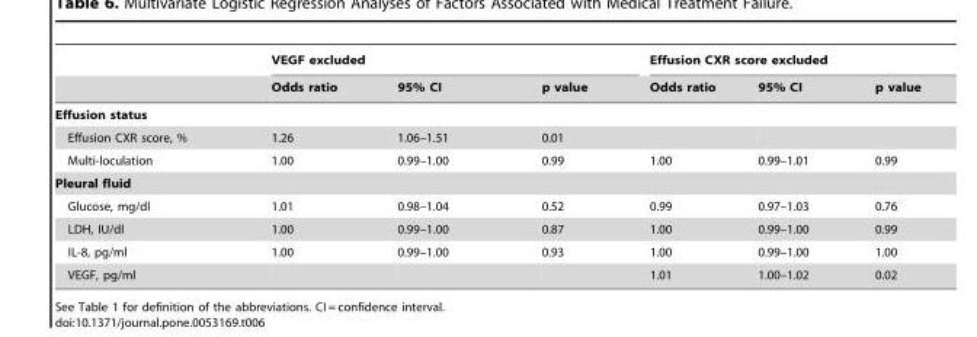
<table><thead><tr><td rowspan="2"></td><td colspan="3">VEGF excluded</td><td colspan="3">Effusion CXR score excluded</td></tr><tr><td>Odds ratio</td><td>95% CI</td><td>p value</td><td>Odds ratio</td><td>95% CI</td><td>p value</td></tr></thead><tbody><tr><td colspan="7">Effusion status</td></tr><tr><td>Effusion CXR score, %</td><td>1.26</td><td>1.06–1.51</td><td>0.01</td><td></td><td></td><td></td></tr><tr><td>Multi-loculation</td><td>1.00</td><td>0.99–1.00</td><td>0.99</td><td>1.00</td><td>0.99–1.01</td><td>0.99</td></tr><tr><td colspan="7">Pleural fluid</td></tr><tr><td>Glucose, mg/dl</td><td>1.01</td><td>0.98–1.04</td><td>0.52</td><td>0.99</td><td>0.97–1.03</td><td>0.76</td></tr><tr><td>LDH, IU/dl</td><td>1.00</td><td>0.99–1.00</td><td>0.87</td><td>1.00</td><td>0.99–1.00</td><td>0.99</td></tr><tr><td>IL-8, pg/ml</td><td>1.00</td><td>0.99–1.00</td><td>0.93</td><td>1.00</td><td>0.99–1.00</td><td>1.00</td></tr><tr><td>VEGF, pg/ml</td><td></td><td></td><td></td><td>1.01</td><td>1.00–1.02</td><td>0.02</td></tr></tbody></table>